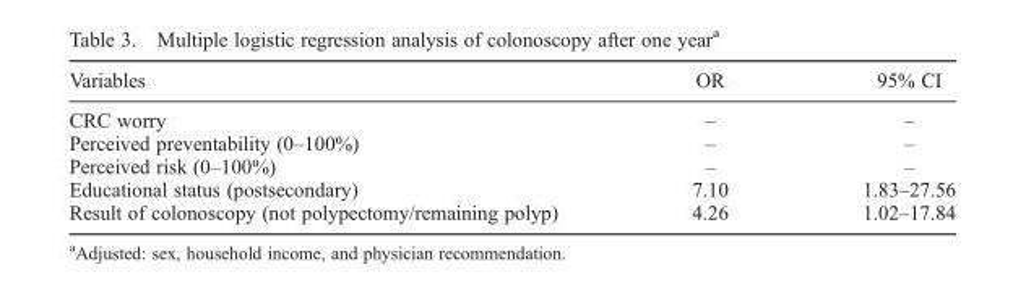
<table><thead><tr><td>Variables</td><td>OR</td><td>95% CI</td></tr></thead><tbody><tr><td>CRC worry</td><td>–</td><td>–</td></tr><tr><td>Perceived preventability (0–100%)</td><td>–</td><td>–</td></tr><tr><td>Perceived risk (0–100%)</td><td>–</td><td>–</td></tr><tr><td>Educational status (postsecondary)</td><td>7.10</td><td>1.83–27.56</td></tr><tr><td>Result of colonoscopy (not polypectomy/remaining polyp)</td><td>4.26</td><td>1.02–17.84</td></tr></tbody></table>